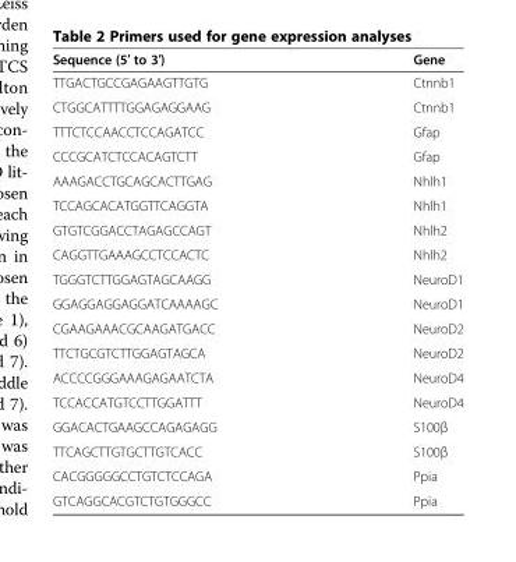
<table><thead><tr><td>Sequence (5′ to 3′)</td><td>Gene</td></tr></thead><tbody><tr><td>TTGACTGCCGAGAAGTTGTG</td><td>Ctnnb1</td></tr><tr><td>CTGGCATTTTGGAGAGGAAG</td><td>Ctnnb1</td></tr><tr><td>TTTCTCCAACCTCCAGATCC</td><td>Gfap</td></tr><tr><td>CCCGCATCTCCACAGTCTT</td><td>Gfap</td></tr><tr><td>AAAGACCTGCAGCACTTGAG</td><td>Nhlh1</td></tr><tr><td>TCCAGCACATGGTTCAGGTA</td><td>Nhlh1</td></tr><tr><td>GTGTCGGACCTAGAGCCAGT</td><td>Nhlh2</td></tr><tr><td>CAGGTTGAAAGCCTCCACTC</td><td>Nhlh2</td></tr><tr><td>TGGGTCTTGGAGTAGCAAGG</td><td>NeuroD1</td></tr><tr><td>GGAGGAGGAGGATCAAAAGC</td><td>NeuroD1</td></tr><tr><td>CGAAGAAACGCAAGATGACC</td><td>NeuroD2</td></tr><tr><td>TTCTGCGTCTTGGAGTAGCA</td><td>NeuroD2</td></tr><tr><td>ACCCCGGGAAAGAGAATCTA</td><td>NeuroD4</td></tr><tr><td>TCCACCATGTCCTTGGATTT</td><td>NeuroD4</td></tr><tr><td>GGACACTGAAGCCAGAGAGG</td><td>S100β</td></tr><tr><td>TTCAGCTTGTGCTTGTCACC</td><td>S100β</td></tr><tr><td>CACGGGGGCCTGTCTCCAGA</td><td>Ppia</td></tr><tr><td>GTCAGGCACGTCTGTGGGCC</td><td>Ppia</td></tr></tbody></table>